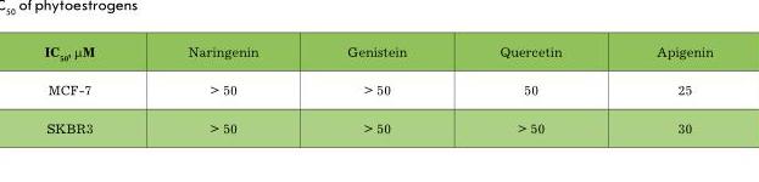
<table><thead><tr><td>IC<sub>50</sub>, µM</td><td>Naringenin</td><td>Genistein</td><td>Quercetin</td><td>Apigenin</td></tr></thead><tbody><tr><td>MCF-7</td><td>&gt; 50</td><td>&gt; 50</td><td>50</td><td>25</td></tr><tr><td>SKBR3</td><td>&gt; 50</td><td>&gt; 50</td><td>&gt; 50</td><td>30</td></tr></tbody></table>